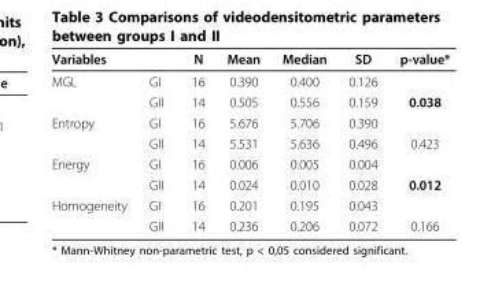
<table><thead><tr><td>Variables</td><td></td><td>N</td><td>Mean</td><td>Median</td><td>SD</td><td>p-value*</td></tr></thead><tbody><tr><td rowspan="2">MGL</td><td>GI</td><td>16</td><td>0.390</td><td>0.400</td><td>0.126</td><td></td></tr><tr><td>GII</td><td>14</td><td>0.505</td><td>0.556</td><td>0.159</td><td>0.038</td></tr><tr><td rowspan="2">Entropy</td><td>GI</td><td>16</td><td>5.676</td><td>5.706</td><td>0.390</td><td></td></tr><tr><td>GII</td><td>14</td><td>5.531</td><td>5.636</td><td>0.496</td><td>0.423</td></tr><tr><td rowspan="2">Energy</td><td>GI</td><td>16</td><td>0.006</td><td>0.005</td><td>0.004</td><td></td></tr><tr><td>GII</td><td>14</td><td>0.024</td><td>0.010</td><td>0.028</td><td>0.012</td></tr><tr><td rowspan="2">Homogeneity</td><td>GI</td><td>16</td><td>0.201</td><td>0.195</td><td>0.043</td><td></td></tr><tr><td>GII</td><td>14</td><td>0.236</td><td>0.206</td><td>0.072</td><td>0.166</td></tr></tbody></table>